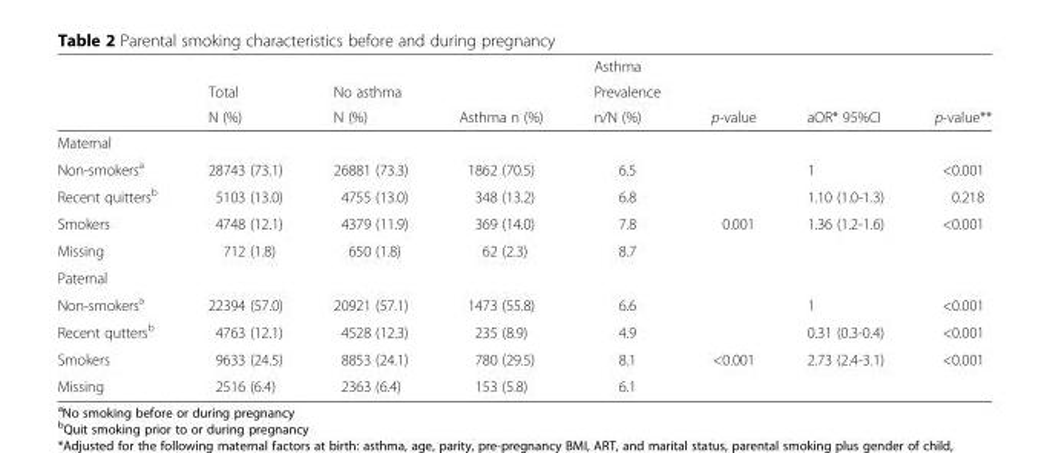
<table><thead><tr><td rowspan="3"></td><td rowspan="3">Total N (%)</td><td rowspan="3">No asthma N (%)</td><td rowspan="3">Asthma n (%)</td><td rowspan="3">Asthma Prevalence n/N (%)</td><td rowspan="3">p-value</td><td rowspan="3">aOR* 95%CI</td><td rowspan="3">p-value**</td></tr><tr></tr><tr></tr></thead><tbody><tr><td colspan="8">Maternal</td></tr><tr><td>Non-smokers<sup>a</sup></td><td>28743 (73.1)</td><td>26881 (73.3)</td><td>1862 (70.5)</td><td>6.5</td><td></td><td>1</td><td>&lt;0.001</td></tr><tr><td>Recent quitters<sup>b</sup></td><td>5103 (13.0)</td><td>4755 (13.0)</td><td>348 (13.2)</td><td>6.8</td><td></td><td>1.10 (1.0-1.3)</td><td>0.218</td></tr><tr><td>Smokers</td><td>4748 (12.1)</td><td>4379 (11.9)</td><td>369 (14.0)</td><td>7.8</td><td>0.001</td><td>1.36 (1.2-1.6)</td><td>&lt;0.001</td></tr><tr><td>Missing</td><td>712 (1.8)</td><td>650 (1.8)</td><td>62 (2.3)</td><td>8.7</td><td></td><td></td><td></td></tr><tr><td colspan="8">Paternal</td></tr><tr><td>Non-smokers<sup>a</sup></td><td>22394 (57.0)</td><td>20921 (57.1)</td><td>1473 (55.8)</td><td>6.6</td><td></td><td>1</td><td>&lt;0.001</td></tr><tr><td>Recent qutters<sup>b</sup></td><td>4763 (12.1)</td><td>4528 (12.3)</td><td>235 (8.9)</td><td>4.9</td><td></td><td>0.31 (0.3-0.4)</td><td>&lt;0.001</td></tr><tr><td>Smokers</td><td>9633 (24.5)</td><td>8853 (24.1)</td><td>780 (29.5)</td><td>8.1</td><td>&lt;0.001</td><td>2.73 (2.4-3.1)</td><td>&lt;0.001</td></tr><tr><td>Missing</td><td>2516 (6.4)</td><td>2363 (6.4)</td><td>153 (5.8)</td><td>6.1</td><td></td><td></td><td></td></tr></tbody></table>